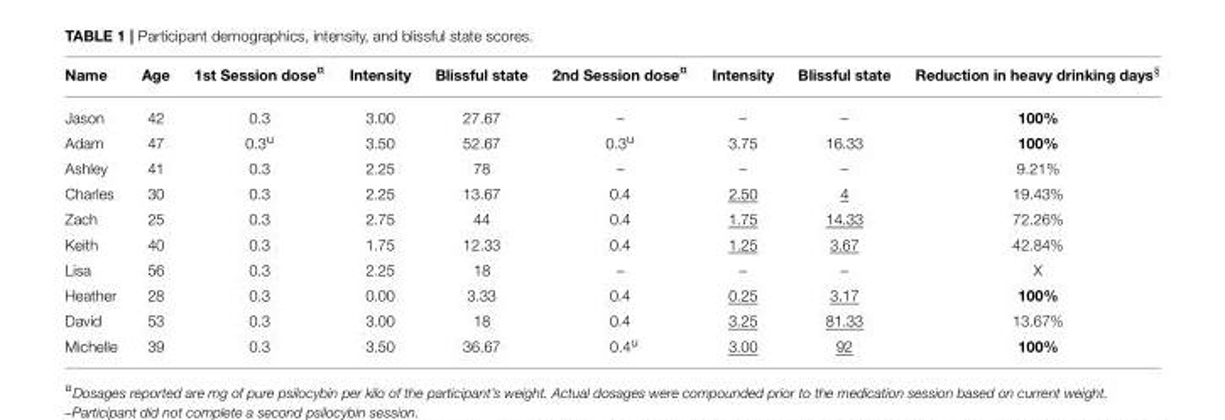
<table><thead><tr><td>Name</td><td>Age</td><td>1st Session dose<sup>¤</sup></td><td>Intensity</td><td>Blissful state</td><td>2nd Session dose<sup>¤</sup></td><td>Intensity</td><td>Blissful state</td><td>Reduction in heavy drinking days<sup>§</sup></td></tr></thead><tbody><tr><td>Jason</td><td>42</td><td>0.3</td><td>3.00</td><td>27.67</td><td>–</td><td>–</td><td>–</td><td>100%</td></tr><tr><td>Adam</td><td>47</td><td>0.3<sup>u</sup></td><td>3.50</td><td>52.67</td><td>0.3<sup>u</sup></td><td>3.75</td><td>16.33</td><td>100%</td></tr><tr><td>Ashley</td><td>41</td><td>0.3</td><td>2.25</td><td>78</td><td>–</td><td>–</td><td>–</td><td>9.21%</td></tr><tr><td>Charles</td><td>30</td><td>0.3</td><td>2.25</td><td>13.67</td><td>0.4</td><td>2.50</td><td>4</td><td>19.43%</td></tr><tr><td>Zach</td><td>25</td><td>0.3</td><td>2.75</td><td>44</td><td>0.4</td><td>1.75</td><td>14.33</td><td>72.26%</td></tr><tr><td>Keith</td><td>40</td><td>0.3</td><td>1.75</td><td>12.33</td><td>0.4</td><td>1.25</td><td>3.67</td><td>42.84%</td></tr><tr><td>Lisa</td><td>56</td><td>0.3</td><td>2.25</td><td>18</td><td>–</td><td>–</td><td>–</td><td>X</td></tr><tr><td>Heather</td><td>28</td><td>0.3</td><td>0.00</td><td>3.33</td><td>0.4</td><td>0.25</td><td>3.17</td><td>100%</td></tr><tr><td>David</td><td>53</td><td>0.3</td><td>3.00</td><td>18</td><td>0.4</td><td>3.25</td><td>81.33</td><td>13.67%</td></tr><tr><td>Michelle</td><td>39</td><td>0.3</td><td>3.50</td><td>36.67</td><td>0.4<sup>u</sup></td><td>3.00</td><td>92</td><td>100%</td></tr></tbody></table>